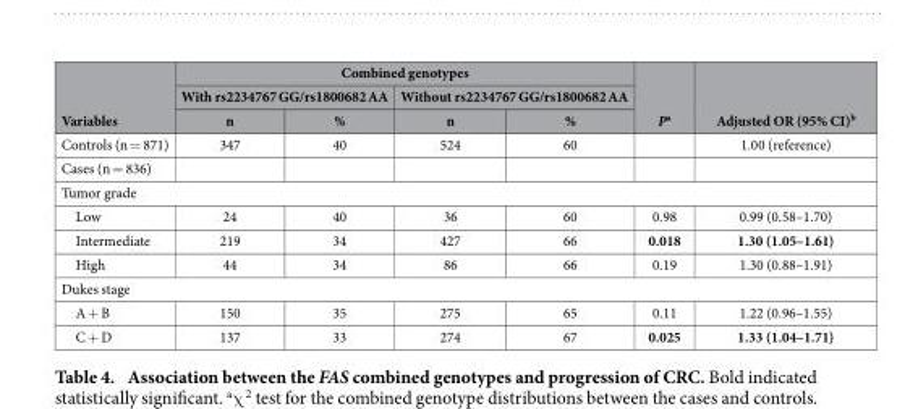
<table><thead><tr><td rowspan="3">Variables</td><td colspan="4">Combined genotypes</td><td rowspan="3">P<sup>a</sup></td><td rowspan="3">Adjusted OR (95% CI)<sup>b</sup></td></tr><tr><td colspan="2">With rs2234767 GG/rs1800682 AA</td><td colspan="2">Without rs2234767 GG/rs1800682 AA</td></tr><tr><td>n</td><td>%</td><td>n</td><td>%</td></tr></thead><tbody><tr><td>Controls (n = 871)</td><td>347</td><td>40</td><td>524</td><td>60</td><td></td><td>1.00 (reference)</td></tr><tr><td colspan="7">Cases (n = 836)</td></tr><tr><td colspan="7">Tumor grade</td></tr><tr><td>Low</td><td>24</td><td>40</td><td>36</td><td>60</td><td>0.98</td><td>0.99 (0.58–1.70)</td></tr><tr><td>Intermediate</td><td>219</td><td>34</td><td>427</td><td>66</td><td>0.018</td><td>1.30 (1.05–1.61)</td></tr><tr><td>High</td><td>44</td><td>34</td><td>86</td><td>66</td><td>0.19</td><td>1.30 (0.88–1.91)</td></tr><tr><td colspan="7">Dukes stage</td></tr><tr><td>A + B</td><td>150</td><td>35</td><td>275</td><td>65</td><td>0.11</td><td>1.22 (0.96–1.55)</td></tr><tr><td>C + D</td><td>137</td><td>33</td><td>274</td><td>67</td><td>0.025</td><td>1.33 (1.04–1.71)</td></tr></tbody></table>